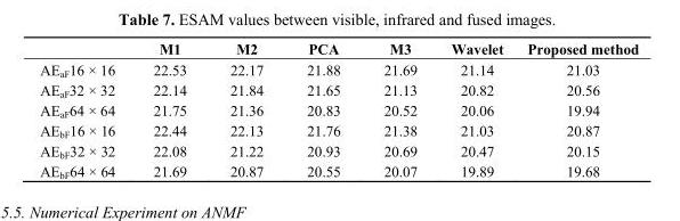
<table><thead><tr><td></td><td>M1</td><td>M2</td><td>PCA</td><td>M3</td><td>Wavelet</td><td>Proposed method</td></tr></thead><tbody><tr><td>AE<sub>aF</sub>16 × 16</td><td>22.53</td><td>22.17</td><td>21.88</td><td>21.69</td><td>21.14</td><td>21.03</td></tr><tr><td>AE<sub>aF</sub>32 × 32</td><td>22.14</td><td>21.84</td><td>21.65</td><td>21.13</td><td>20.82</td><td>20.56</td></tr><tr><td>AE<sub>aF</sub>64 × 64</td><td>21.75</td><td>21.36</td><td>20.83</td><td>20.52</td><td>20.06</td><td>19.94</td></tr><tr><td>AE<sub>bF</sub>16 × 16</td><td>22.44</td><td>22.13</td><td>21.76</td><td>21.38</td><td>21.03</td><td>20.87</td></tr><tr><td>AE<sub>bF</sub>32 × 32</td><td>22.08</td><td>21.22</td><td>20.93</td><td>20.69</td><td>20.47</td><td>20.15</td></tr><tr><td>AE<sub>bF</sub>64 × 64</td><td>21.69</td><td>20.87</td><td>20.55</td><td>20.07</td><td>19.89</td><td>19.68</td></tr></tbody></table>